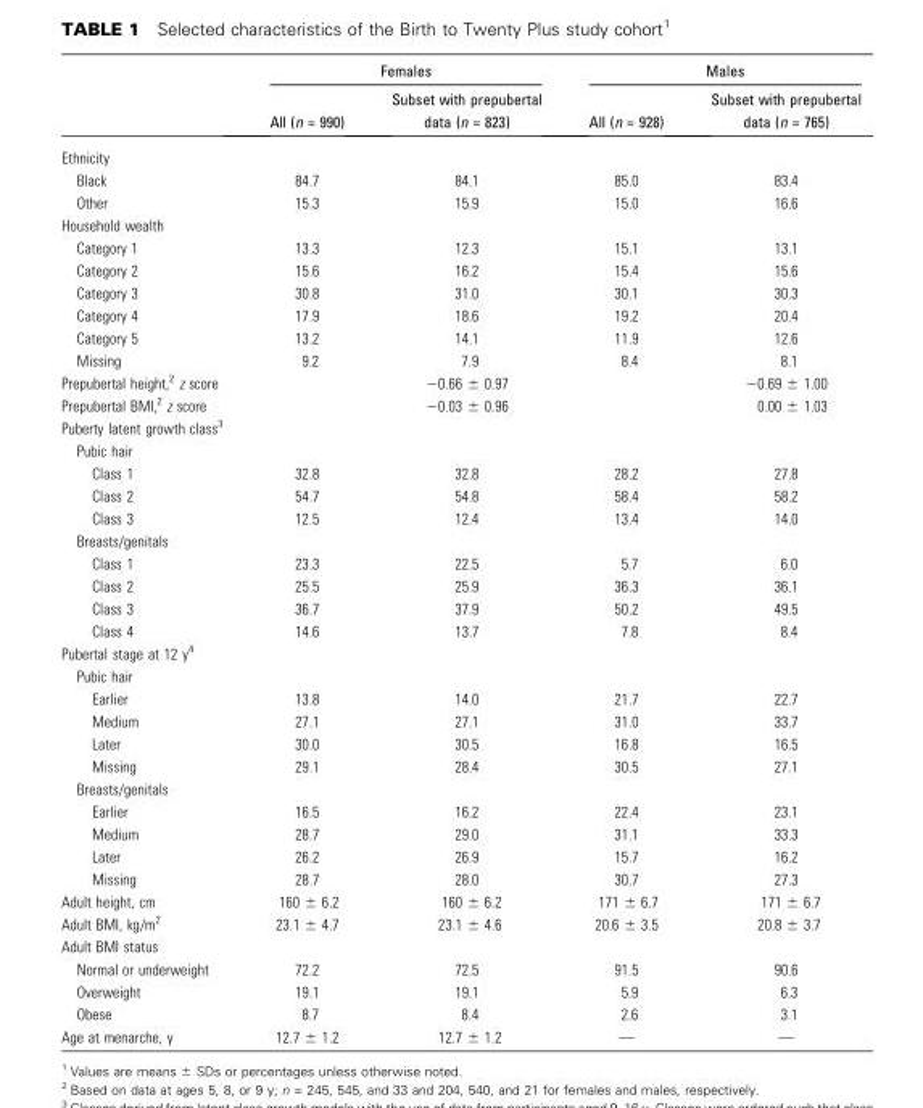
<table><thead><tr><td rowspan="2"></td><td colspan="2">Females</td><td colspan="2">Males</td></tr><tr><td>All (n = 990)</td><td>Subset with prepubertal data (n = 823)</td><td>All (n = 928)</td><td>Subset with prepubertal data (n = 765)</td></tr></thead><tbody><tr><td colspan="5">Ethnicity</td></tr><tr><td>Black</td><td>84.7</td><td>84.1</td><td>85.0</td><td>83.4</td></tr><tr><td>Other</td><td>15.3</td><td>15.9</td><td>15.0</td><td>16.6</td></tr><tr><td colspan="5">Household wealth</td></tr><tr><td>Category 1</td><td>13.3</td><td>12.3</td><td>15.1</td><td>13.1</td></tr><tr><td>Category 2</td><td>15.6</td><td>16.2</td><td>15.4</td><td>15.6</td></tr><tr><td>Category 3</td><td>30.8</td><td>31.0</td><td>30.1</td><td>30.3</td></tr><tr><td>Category 4</td><td>17.9</td><td>18.6</td><td>19.2</td><td>20.4</td></tr><tr><td>Category 5</td><td>13.2</td><td>14.1</td><td>11.9</td><td>12.6</td></tr><tr><td>Missing</td><td>9.2</td><td>7.9</td><td>8.4</td><td>8.1</td></tr><tr><td>Prepubertal height,<sup>2</sup> z score</td><td></td><td>−0.66 ± 0.97</td><td></td><td>−0.69 ± 1.00</td></tr><tr><td>Prepubertal BMI,<sup>2</sup> z score</td><td></td><td>−0.03 ± 0.96</td><td></td><td>0.00 ± 1.03</td></tr><tr><td colspan="5">Puberty latent growth class<sup>3</sup></td></tr><tr><td colspan="5">Pubic hair</td></tr><tr><td>Class 1</td><td>32.8</td><td>32.8</td><td>28.2</td><td>27.8</td></tr><tr><td>Class 2</td><td>54.7</td><td>54.8</td><td>58.4</td><td>58.2</td></tr><tr><td>Class 3</td><td>12.5</td><td>12.4</td><td>13.4</td><td>14.0</td></tr><tr><td colspan="5">Breasts/genitals</td></tr><tr><td>Class 1</td><td>23.3</td><td>22.5</td><td>5.7</td><td>6.0</td></tr><tr><td>Class 2</td><td>25.5</td><td>25.9</td><td>36.3</td><td>36.1</td></tr><tr><td>Class 3</td><td>36.7</td><td>37.9</td><td>50.2</td><td>49.5</td></tr><tr><td>Class 4</td><td>14.6</td><td>13.7</td><td>7.8</td><td>8.4</td></tr><tr><td colspan="5">Pubertal stage at 12 y<sup>4</sup></td></tr><tr><td colspan="5">Pubic hair</td></tr><tr><td>Earlier</td><td>13.8</td><td>14.0</td><td>21.7</td><td>22.7</td></tr><tr><td>Medium</td><td>27.1</td><td>27.1</td><td>31.0</td><td>33.7</td></tr><tr><td>Later</td><td>30.0</td><td>30.5</td><td>16.8</td><td>16.5</td></tr><tr><td>Missing</td><td>29.1</td><td>28.4</td><td>30.5</td><td>27.1</td></tr><tr><td colspan="5">Breasts/genitals</td></tr><tr><td>Earlier</td><td>16.5</td><td>16.2</td><td>22.4</td><td>23.1</td></tr><tr><td>Medium</td><td>28.7</td><td>29.0</td><td>31.1</td><td>33.3</td></tr><tr><td>Later</td><td>26.2</td><td>26.9</td><td>15.7</td><td>16.2</td></tr><tr><td>Missing</td><td>28.7</td><td>28.0</td><td>30.7</td><td>27.3</td></tr><tr><td>Adult height, cm</td><td>160 ± 6.2</td><td>160 ± 6.2</td><td>171 ± 6.7</td><td>171 ± 6.7</td></tr><tr><td>Adult BMI, kg/m<sup>2</sup></td><td>23.1 ± 4.7</td><td>23.1 ± 4.6</td><td>20.6 ± 3.5</td><td>20.8 ± 3.7</td></tr><tr><td colspan="5">Adult BMI status</td></tr><tr><td>Normal or underweight</td><td>72.2</td><td>72.5</td><td>91.5</td><td>90.6</td></tr><tr><td>Overweight</td><td>19.1</td><td>19.1</td><td>5.9</td><td>6.3</td></tr><tr><td>Obese</td><td>8.7</td><td>8.4</td><td>2.6</td><td>3.1</td></tr><tr><td>Age at menarche, y</td><td>12.7 ± 1.2</td><td>12.7 ± 1.2</td><td>—</td><td>—</td></tr></tbody></table>